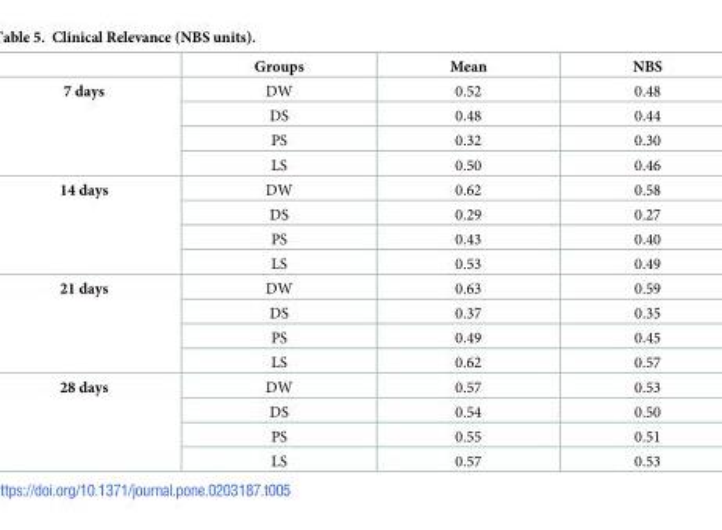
<table><thead><tr><td></td><td>Groups</td><td>Mean</td><td>NBS</td></tr></thead><tbody><tr><td rowspan="4">7 days</td><td>DW</td><td>0.52</td><td>0.48</td></tr><tr><td>DS</td><td>0.48</td><td>0.44</td></tr><tr><td>PS</td><td>0.32</td><td>0.30</td></tr><tr><td>LS</td><td>0.50</td><td>0.46</td></tr><tr><td rowspan="4">14 days</td><td>DW</td><td>0.62</td><td>0.58</td></tr><tr><td>DS</td><td>0.29</td><td>0.27</td></tr><tr><td>PS</td><td>0.43</td><td>0.40</td></tr><tr><td>LS</td><td>0.53</td><td>0.49</td></tr><tr><td rowspan="4">21 days</td><td>DW</td><td>0.63</td><td>0.59</td></tr><tr><td>DS</td><td>0.37</td><td>0.35</td></tr><tr><td>PS</td><td>0.49</td><td>0.45</td></tr><tr><td>LS</td><td>0.62</td><td>0.57</td></tr><tr><td rowspan="4">28 days</td><td>DW</td><td>0.57</td><td>0.53</td></tr><tr><td>DS</td><td>0.54</td><td>0.50</td></tr><tr><td>PS</td><td>0.55</td><td>0.51</td></tr><tr><td>LS</td><td>0.57</td><td>0.53</td></tr></tbody></table>